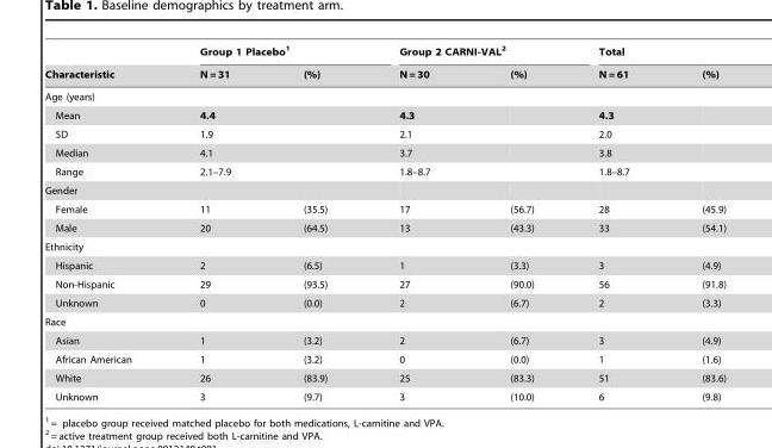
<table><thead><tr><td rowspan="2">Characteristic</td><td colspan="2">Group 1 Placebo<sup>1</sup></td><td colspan="2">Group 2 CARNI-VAL<sup>2</sup></td><td colspan="2">Total</td></tr><tr><td>N = 31</td><td>(%)</td><td>N = 30</td><td>(%)</td><td>N = 61</td><td>(%)</td></tr></thead><tbody><tr><td colspan="7">Age (years)</td></tr><tr><td>Mean</td><td>4.4</td><td></td><td>4.3</td><td></td><td>4.3</td><td></td></tr><tr><td>SD</td><td>1.9</td><td></td><td>2.1</td><td></td><td>2.0</td><td></td></tr><tr><td>Median</td><td>4.1</td><td></td><td>3.7</td><td></td><td>3.8</td><td></td></tr><tr><td>Range</td><td>2.1–7.9</td><td></td><td>1.8–8.7</td><td></td><td>1.8–8.7</td><td></td></tr><tr><td colspan="7">Gender</td></tr><tr><td>Female</td><td>11</td><td>(35.5)</td><td>17</td><td>(56.7)</td><td>28</td><td>(45.9)</td></tr><tr><td>Male</td><td>20</td><td>(64.5)</td><td>13</td><td>(43.3)</td><td>33</td><td>(54.1)</td></tr><tr><td colspan="7">Ethnicity</td></tr><tr><td>Hispanic</td><td>2</td><td>(6.5)</td><td>1</td><td>(3.3)</td><td>3</td><td>(4.9)</td></tr><tr><td>Non-Hispanic</td><td>29</td><td>(93.5)</td><td>27</td><td>(90.0)</td><td>56</td><td>(91.8)</td></tr><tr><td>Unknown</td><td>0</td><td>(0.0)</td><td>2</td><td>(6.7)</td><td>2</td><td>(3.3)</td></tr><tr><td colspan="7">Race</td></tr><tr><td>Asian</td><td>1</td><td>(3.2)</td><td>2</td><td>(6.7)</td><td>3</td><td>(4.9)</td></tr><tr><td>African American</td><td>1</td><td>(3.2)</td><td>0</td><td>(0.0)</td><td>1</td><td>(1.6)</td></tr><tr><td>White</td><td>26</td><td>(83.9)</td><td>25</td><td>(83.3)</td><td>51</td><td>(83.6)</td></tr><tr><td>Unknown</td><td>3</td><td>(9.7)</td><td>3</td><td>(10.0)</td><td>6</td><td>(9.8)</td></tr></tbody></table>